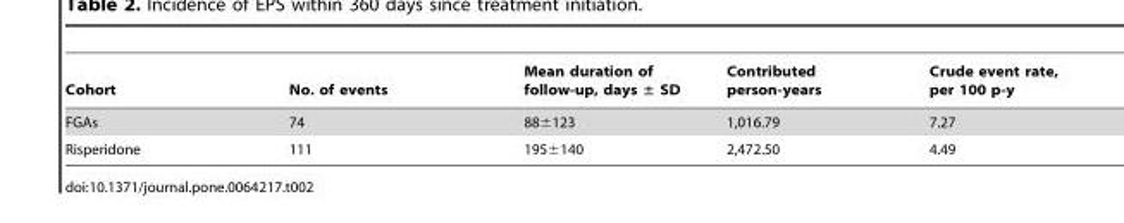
<table><thead><tr><td>Cohort</td><td>No. of events</td><td>Mean duration of follow-up, days ± SD</td><td>Contributed person-years</td><td>Crude event rate, per 100 p-y</td></tr></thead><tbody><tr><td>FGAs</td><td>74</td><td>88±123</td><td>1,016.79</td><td>7.27</td></tr><tr><td>Risperidone</td><td>111</td><td>195±140</td><td>2,472.50</td><td>4.49</td></tr></tbody></table>